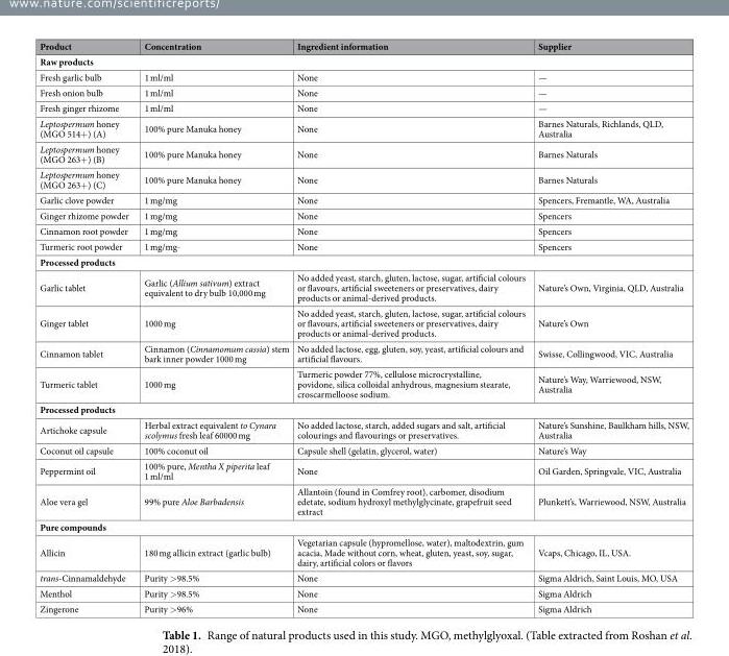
<table><thead><tr><td>Product</td><td>Concentration</td><td>Ingredient information</td><td>Supplier</td></tr></thead><tbody><tr><td colspan="4">Raw products</td></tr><tr><td>Fresh garlic bulb</td><td>1 ml/ml</td><td>None</td><td>—</td></tr><tr><td>Fresh onion bulb</td><td>1 ml/ml</td><td>None</td><td>—</td></tr><tr><td>Fresh ginger rhizome</td><td>1 ml/ml</td><td>None</td><td>—</td></tr><tr><td>Leptospermum honey (MGO 514+) (A)</td><td>100% pure Manuka honey</td><td>None</td><td>Barnes Naturals, Richlands, QLD, Australia</td></tr><tr><td>Leptospermum honey (MGO 263+) (B)</td><td>100% pure Manuka honey</td><td>None</td><td>Barnes Naturals</td></tr><tr><td>Leptospermum honey (MGO 263+) (C)</td><td>100% pure Manuka honey</td><td>None</td><td>Barnes Naturals</td></tr><tr><td>Garlic clove powder</td><td>1 mg/mg</td><td>None</td><td>Spencers, Fremantle, WA, Australia</td></tr><tr><td>Ginger rhizome powder</td><td>1 mg/mg</td><td>None</td><td>Spencers</td></tr><tr><td>Cinnamon root powder</td><td>1 mg/mg</td><td>None</td><td>Spencers</td></tr><tr><td>Turmeric root powder</td><td>1 mg/mg<sup>_</sup></td><td>None</td><td>Spencers</td></tr><tr><td colspan="4">Processed products</td></tr><tr><td>Garlic tablet</td><td>Garlic (Allium sativum) extract equivalent to dry bulb 10,000 mg</td><td>No added yeast, starch, gluten, lactose, sugar, artificial colours or flavours, artificial sweeteners or preservatives, dairy products or animal-derived products.</td><td>Nature’s Own, Virginia, QLD, Australia</td></tr><tr><td>Ginger tablet</td><td>1000 mg</td><td>No added yeast, starch, gluten, lactose, sugar, artificial colours or flavours, artificial sweeteners or preservatives, dairy products or animal-derived products.</td><td>Nature’s Own</td></tr><tr><td>Cinnamon tablet</td><td>Cinnamon (Cinnamomum cassia) stem bark inner powder 1000 mg</td><td>No added lactose, egg, gluten, soy, yeast, artificial colours and artificial flavours.</td><td>Swisse, Collingwood, VIC, Australia</td></tr><tr><td>Turmeric tablet</td><td>1000 mg</td><td>Turmeric powder 77%, cellulose microcrystalline, povidone, silica colloidal anhydrous, magnesium stearate, croscarmelloose sodium.</td><td>Nature’s Way, Warriewood, NSW, Australia</td></tr><tr><td colspan="4">Processed products</td></tr><tr><td>Artichoke capsule</td><td>Herbal extract equivalent to Cynara scolymus fresh leaf 60000 mg</td><td>No added lactose, starch, added sugars and salt, artificial colourings and flavourings or preservatives.</td><td>Nature’s Sunshine, Baulkham hills, NSW, Australia</td></tr><tr><td>Coconut oil capsule</td><td>100% coconut oil</td><td>Capsule shell (gelatin, glycerol, water)</td><td>Nature’s Way</td></tr><tr><td>Peppermint oil</td><td>100% pure, Mentha X piperita leaf 1 ml/ml</td><td>None</td><td>Oil Garden, Springvale, VIC, Australia</td></tr><tr><td>Aloe vera gel</td><td>99% pure Aloe Barbadensis</td><td>Allantoin (found in Comfrey root), carbomer, disodium edetate, sodium hydroxyl methylglycinate, grapefruit seed extract</td><td>Plunkett’s, Warriewood, NSW, Australia</td></tr><tr><td colspan="4">Pure compounds</td></tr><tr><td>Allicin</td><td>180 mg allicin extract (garlic bulb)</td><td>Vegetarian capsule (hypromellose, water), maltodextrin, gum acacia, Made without corn, wheat, gluten, yeast, soy, sugar, dairy, artificial colors or flavors</td><td>Vcaps, Chicago, IL, USA.</td></tr><tr><td>trans-Cinnamaldehyde</td><td>Purity &gt;98.5%</td><td>None</td><td>Sigma Aldrich, Saint Louis, MO, USA</td></tr><tr><td>Menthol</td><td>Purity &gt;98.5%</td><td>None</td><td>Sigma Aldrich</td></tr><tr><td>Zingerone</td><td>Purity &gt;96%</td><td>None</td><td>Sigma Aldrich</td></tr></tbody></table>